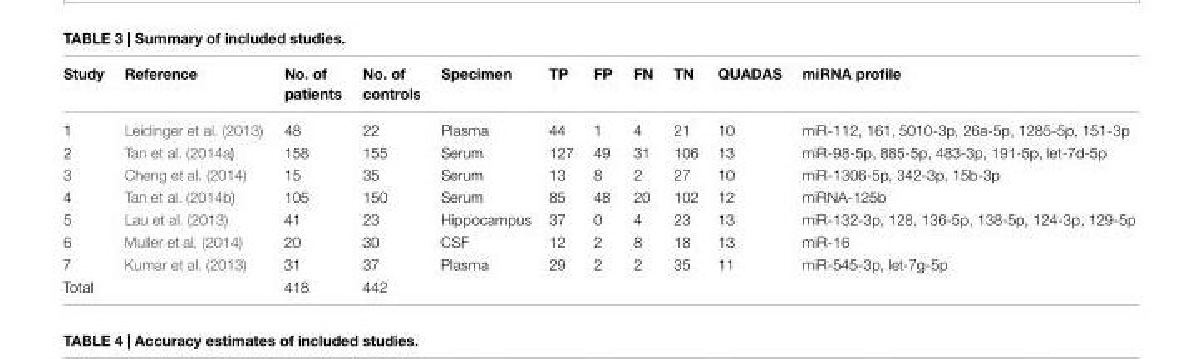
<table><thead><tr><td>Study</td><td>Reference</td><td>No. of patients</td><td>No. of controls</td><td>Specimen</td><td>TP</td><td>FP</td><td>FN</td><td>TN</td><td>QUADAS</td><td>miRNA profile</td></tr></thead><tbody><tr><td>1</td><td>Leidinger et al. (2013)</td><td>48</td><td>22</td><td>Plasma</td><td>44</td><td>1</td><td>4</td><td>21</td><td>10</td><td>miR-112, 161, 5010-3p, 26a-5p, 1285-5p, 151-3p</td></tr><tr><td>2</td><td>Tan et al. (2014a)</td><td>158</td><td>155</td><td>Serum</td><td>127</td><td>49</td><td>31</td><td>106</td><td>13</td><td>miR-98-5p, 885-5p, 483-3p, 191-5p, let-7d-5p</td></tr><tr><td>3</td><td>Cheng et al. (2014)</td><td>15</td><td>35</td><td>Serum</td><td>13</td><td>8</td><td>2</td><td>27</td><td>10</td><td>miR-1306-5p, 342-3p, 15b-3p</td></tr><tr><td>4</td><td>Tan et al. (2014b)</td><td>105</td><td>150</td><td>Serum</td><td>85</td><td>48</td><td>20</td><td>102</td><td>12</td><td>miRNA-125b</td></tr><tr><td>5</td><td>Lau et al. (2013)</td><td>41</td><td>23</td><td>Hippocampus</td><td>37</td><td>0</td><td>4</td><td>23</td><td>13</td><td>miR-132-3p, 128, 136-5p, 138-5p, 124-3p, 129-5p</td></tr><tr><td>6</td><td>Muller et al. (2014)</td><td>20</td><td>30</td><td>CSF</td><td>12</td><td>2</td><td>8</td><td>18</td><td>13</td><td>miR-16</td></tr><tr><td>7</td><td>Kumar et al. (2013)</td><td>31</td><td>37</td><td>Plasma</td><td>29</td><td>2</td><td>2</td><td>35</td><td>11</td><td>miR-545-3p, let-7g-5p</td></tr><tr><td>Total</td><td></td><td>418</td><td>442</td><td></td><td></td><td></td><td></td><td></td><td></td><td></td></tr></tbody></table>